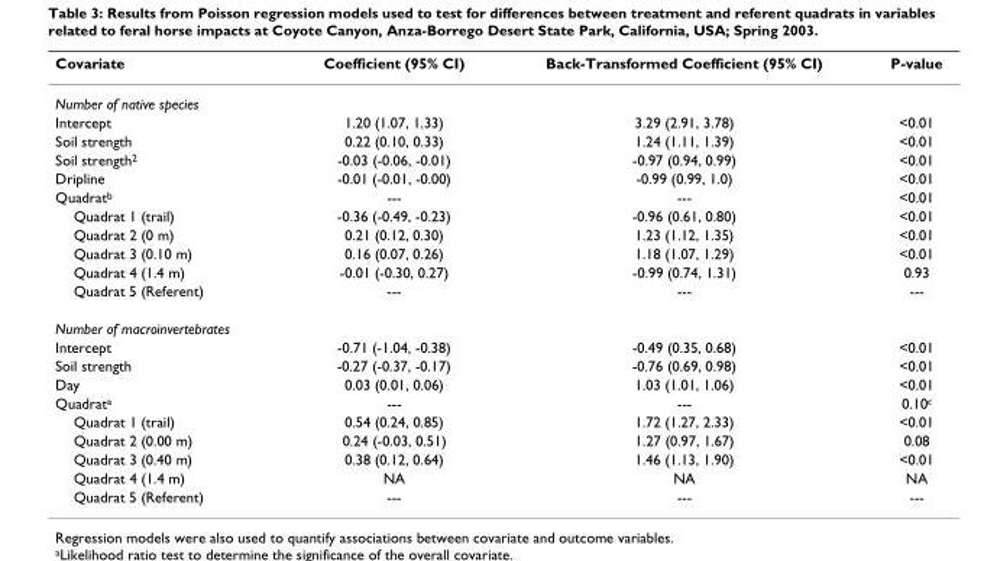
<table><thead><tr><td>Covariate</td><td>Coefficient (95% CI)</td><td>Back-Transformed Coefficient (95% CI)</td><td>P-value</td></tr></thead><tbody><tr><td colspan="4">Number of native species</td></tr><tr><td>Intercept</td><td>1.20 (1.07, 1.33)</td><td>3.29 (2.91, 3.78)</td><td>&lt;0.01</td></tr><tr><td>Soil strength</td><td>0.22 (0.10, 0.33)</td><td>1.24 (1.11, 1.39)</td><td>&lt;0.01</td></tr><tr><td>Soil strength<sup>2</sup></td><td>-0.03 (-0.06, -0.01)</td><td>-0.97 (0.94, 0.99)</td><td>&lt;0.01</td></tr><tr><td>Dripline</td><td>-0.01 (-0.01, -0.00)</td><td>-0.99 (0.99, 1.0)</td><td>&lt;0.01</td></tr><tr><td>Quadrat<sup>b</sup></td><td>---</td><td>---</td><td>&lt;0.01</td></tr><tr><td>Quadrat 1 (trail)</td><td>-0.36 (-0.49, -0.23)</td><td>-0.96 (0.61, 0.80)</td><td>&lt;0.01</td></tr><tr><td>Quadrat 2 (0 m)</td><td>0.21 (0.12, 0.30)</td><td>1.23 (1.12, 1.35)</td><td>&lt;0.01</td></tr><tr><td>Quadrat 3 (0.10 m)</td><td>0.16 (0.07, 0.26)</td><td>1.18 (1.07, 1.29)</td><td>&lt;0.01</td></tr><tr><td>Quadrat 4 (1.4 m)</td><td>-0.01 (-0.30, 0.27)</td><td>-0.99 (0.74, 1.31)</td><td>0.93</td></tr><tr><td>Quadrat 5 (Referent)</td><td>---</td><td>---</td><td>---</td></tr><tr><td colspan="4">Number of macroinvertebrates</td></tr><tr><td>Intercept</td><td>-0.71 (-1.04, -0.38)</td><td>-0.49 (0.35, 0.68)</td><td>&lt;0.01</td></tr><tr><td>Soil strength</td><td>-0.27 (-0.37, -0.17)</td><td>-0.76 (0.69, 0.98)</td><td>&lt;0.01</td></tr><tr><td>Day</td><td>0.03 (0.01, 0.06)</td><td>1.03 (1.01, 1.06)</td><td>&lt;0.01</td></tr><tr><td>Quadrat<sup>a</sup></td><td>---</td><td>---</td><td>0.10<sup>c</sup></td></tr><tr><td>Quadrat 1 (trail)</td><td>0.54 (0.24, 0.85)</td><td>1.72 (1.27, 2.33)</td><td>&lt;0.01</td></tr><tr><td>Quadrat 2 (0.00 m)</td><td>0.24 (-0.03, 0.51)</td><td>1.27 (0.97, 1.67)</td><td>0.08</td></tr><tr><td>Quadrat 3 (0.40 m)</td><td>0.38 (0.12, 0.64)</td><td>1.46 (1.13, 1.90)</td><td>&lt;0.01</td></tr><tr><td>Quadrat 4 (1.4 m)</td><td>NA</td><td>NA</td><td>NA</td></tr><tr><td>Quadrat 5 (Referent)</td><td>---</td><td>---</td><td>---</td></tr></tbody></table>